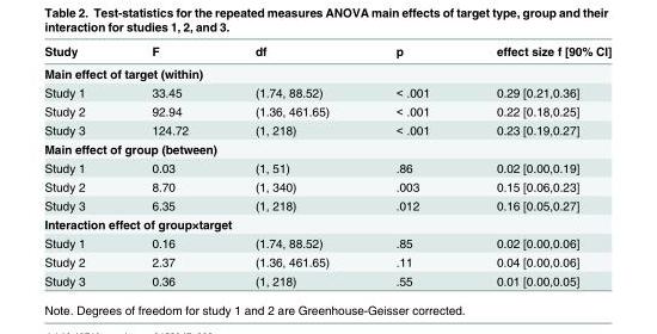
<table><thead><tr><td>Study</td><td>F</td><td>df</td><td>p</td><td>effect size f [90% CI]</td></tr></thead><tbody><tr><td colspan="5">Main effect of target (within)</td></tr><tr><td>Study 1</td><td>33.45</td><td>(1.74, 88.52)</td><td>&lt; .001</td><td>0.29 [0.21,0.36]</td></tr><tr><td>Study 2</td><td>92.94</td><td>(1.36, 461.65)</td><td>&lt; .001</td><td>0.22 [0.18,0.25]</td></tr><tr><td>Study 3</td><td>124.72</td><td>(1, 218)</td><td>&lt; .001</td><td>0.23 [0.19,0.27]</td></tr><tr><td colspan="5">Main effect of group (between)</td></tr><tr><td>Study 1</td><td>0.03</td><td>(1, 51)</td><td>.86</td><td>0.02 [0.00,0.19]</td></tr><tr><td>Study 2</td><td>8.70</td><td>(1, 340)</td><td>.003</td><td>0.15 [0.06,0.23]</td></tr><tr><td>Study 3</td><td>6.35</td><td>(1, 218)</td><td>.012</td><td>0.16 [0.05,0.27]</td></tr><tr><td colspan="5">Interaction effect of group×target</td></tr><tr><td>Study 1</td><td>0.16</td><td>(1.74, 88.52)</td><td>.85</td><td>0.02 [0.00,0.06]</td></tr><tr><td>Study 2</td><td>2.37</td><td>(1.36, 461.65)</td><td>.11</td><td>0.04 [0.00,0.06]</td></tr><tr><td>Study 3</td><td>0.36</td><td>(1, 218)</td><td>.55</td><td>0.01 [0.00,0.05]</td></tr></tbody></table>